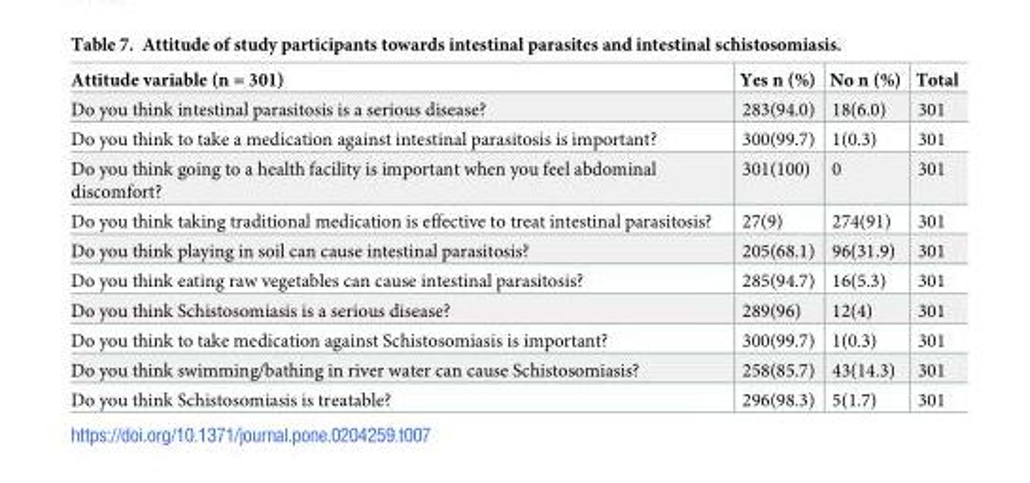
<table><thead><tr><td>Attitude variable (n = 301)</td><td>Yes n (%)</td><td>No n (%)</td><td>Total</td></tr></thead><tbody><tr><td>Do you think intestinal parasitosis is a serious disease?</td><td>283(94.0)</td><td>18(6.0)</td><td>301</td></tr><tr><td>Do you think to take a medication against intestinal parasitosis is important?</td><td>300(99.7)</td><td>1(0.3)</td><td>301</td></tr><tr><td>Do you think going to a health facility is important when you feel abdominal discomfort?</td><td>301(100)</td><td>0</td><td>301</td></tr><tr><td>Do you think taking traditional medication is effective to treat intestinal parasitosis?</td><td>27(9)</td><td>274(91)</td><td>301</td></tr><tr><td>Do you think playing in soil can cause intestinal parasitosis?</td><td>205(68.1)</td><td>96(31.9)</td><td>301</td></tr><tr><td>Do you think eating raw vegetables can cause intestinal parasitosis?</td><td>285(94.7)</td><td>16(5.3)</td><td>301</td></tr><tr><td>Do you think Schistosomiasis is a serious disease?</td><td>289(96)</td><td>12(4)</td><td>301</td></tr><tr><td>Do you think to take medication against Schistosomiasis is important?</td><td>300(99.7)</td><td>1(0.3)</td><td>301</td></tr><tr><td>Do you think swimming/bathing in river water can cause Schistosomiasis?</td><td>258(85.7)</td><td>43(14.3)</td><td>301</td></tr><tr><td>Do you think Schistosomiasis is treatable?</td><td>296(98.3)</td><td>5(1.7)</td><td>301</td></tr></tbody></table>